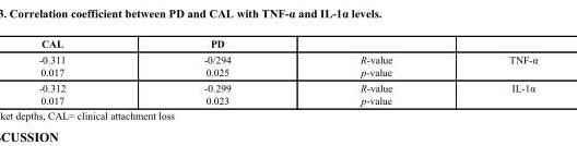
<table><thead><tr><td>CAL</td><td>PD</td><td></td><td></td></tr></thead><tbody><tr><td>-0.311 0.017</td><td>-0/294 0.025</td><td>R-value p-value</td><td>TNF-α</td></tr><tr><td>-0.312 0.017</td><td>-0.299 0.023</td><td>R-value p-value</td><td>IL-1α</td></tr></tbody></table>